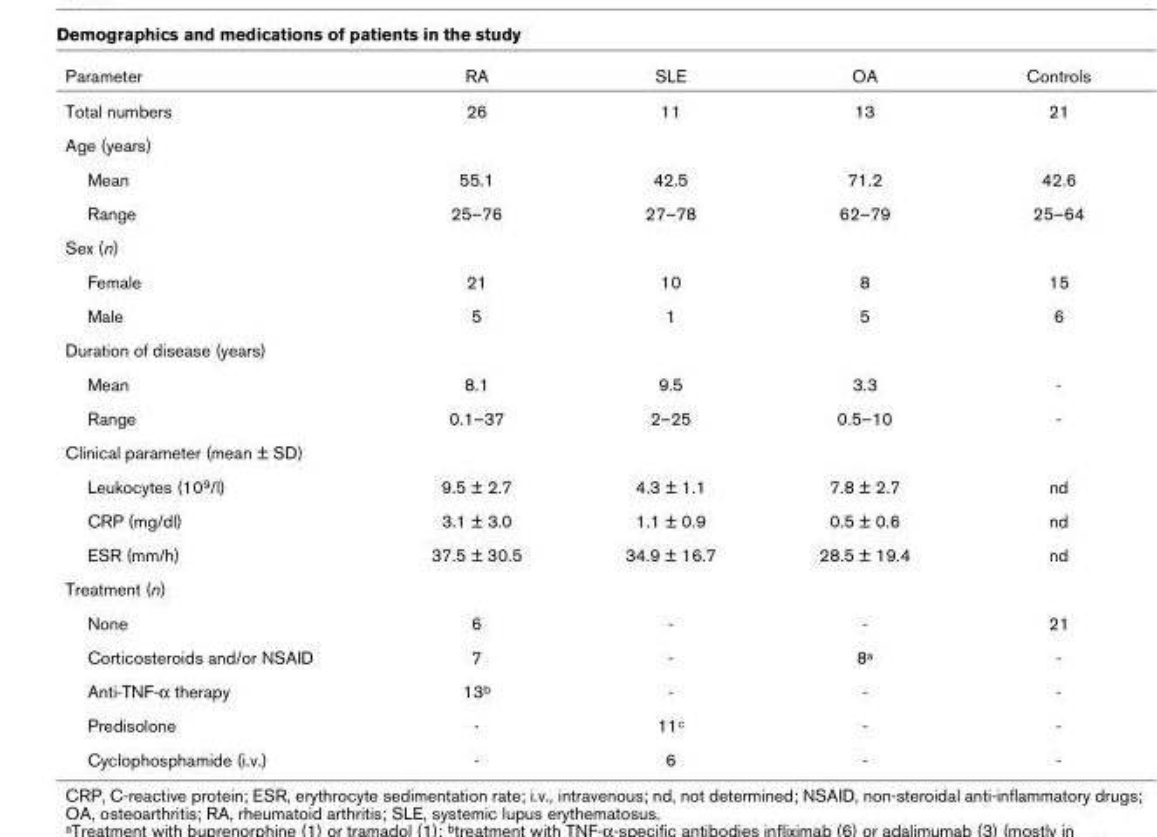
<table><thead><tr><td>Parameter</td><td>RA</td><td>SLE</td><td>OA</td><td>Controls</td></tr></thead><tbody><tr><td>Total numbers</td><td>26</td><td>11</td><td>13</td><td>21</td></tr><tr><td colspan="5">Age (years)</td></tr><tr><td>Mean</td><td>55.1</td><td>42.5</td><td>71.2</td><td>42.6</td></tr><tr><td>Range</td><td>25–76</td><td>27–78</td><td>62–79</td><td>25–64</td></tr><tr><td colspan="5">Sex (n)</td></tr><tr><td>Female</td><td>21</td><td>10</td><td>8</td><td>15</td></tr><tr><td>Male</td><td>5</td><td>1</td><td>5</td><td>6</td></tr><tr><td colspan="5">Duration of disease (years)</td></tr><tr><td>Mean</td><td>8.1</td><td>9.5</td><td>3.3</td><td>-</td></tr><tr><td>Range</td><td>0.1–37</td><td>2–25</td><td>0.5–10</td><td>-</td></tr><tr><td colspan="5">Clinical parameter (mean ± SD)</td></tr><tr><td>Leukocytes (109/l)</td><td>9.5 ± 2.7</td><td>4.3 ± 1.1</td><td>7.8 ± 2.7</td><td>nd</td></tr><tr><td>CRP (mg/dl)</td><td>3.1 ± 3.0</td><td>1.1 ± 0.9</td><td>0.5 ± 0.6</td><td>nd</td></tr><tr><td>ESR (mm/h)</td><td>37.5 ± 30.5</td><td>34.9 ± 16.7</td><td>28.5 ± 19.4</td><td>nd</td></tr><tr><td colspan="5">Treatment (n)</td></tr><tr><td>None</td><td>6</td><td>-</td><td>-</td><td>21</td></tr><tr><td>Corticosteroids and/or NSAID</td><td>7</td><td>-</td><td>8a</td><td>-</td></tr><tr><td>Anti-TNF-α therapy</td><td>13b</td><td>-</td><td>-</td><td>-</td></tr><tr><td>Predisolone</td><td>-</td><td>11c</td><td>-</td><td>-</td></tr><tr><td>Cyclophosphamide (i.v.)</td><td>-</td><td>6</td><td>-</td><td>-</td></tr></tbody></table>